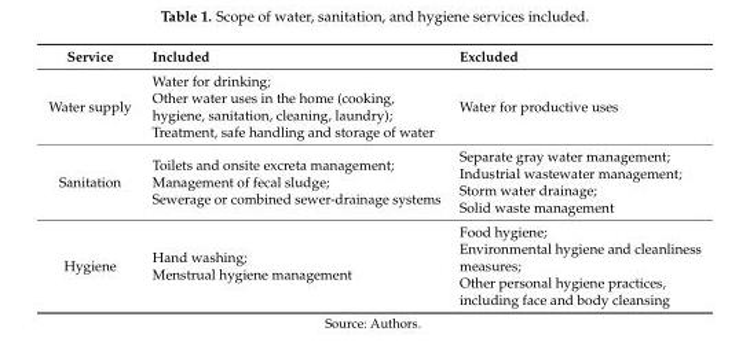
<table><thead><tr><td>Service</td><td>Included</td><td>Excluded</td></tr></thead><tbody><tr><td>Water supply</td><td>Water for drinking; Other water uses in the home (cooking, hygiene, sanitation, cleaning, laundry); Treatment, safe handling and storage of water</td><td>Water for productive uses</td></tr><tr><td>Sanitation</td><td>Toilets and onsite excreta management; Management of fecal sludge; Sewerage or combined sewer-drainage systems</td><td>Separate gray water management; Industrial wastewater management; Storm water drainage; Solid waste management</td></tr><tr><td>Hygiene</td><td>Hand washing; Menstrual hygiene management</td><td>Food hygiene; Environmental hygiene and cleanliness measures; Other personal hygiene practices, including face and body cleansing</td></tr></tbody></table>